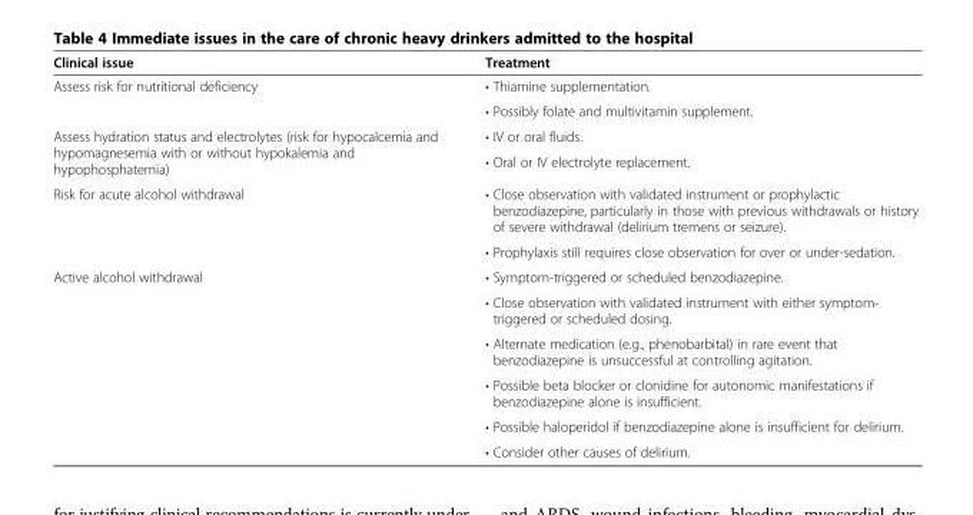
<table><thead><tr><td>Clinical issue</td><td>Treatment</td></tr></thead><tbody><tr><td rowspan="2">Assess risk for nutritional deficiency</td><td>• Thiamine supplementation.</td></tr><tr><td>• Possibly folate and multivitamin supplement.</td></tr><tr><td rowspan="2">Assess hydration status and electrolytes (risk for hypocalcemia and hypomagnesemia with or without hypokalemia and hypophosphatemia)</td><td>• IV or oral fluids.</td></tr><tr><td>• Oral or IV electrolyte replacement.</td></tr><tr><td rowspan="2">Risk for acute alcohol withdrawal</td><td>• Close observation with validated instrument or prophylactic benzodiazepine, particularly in those with previous withdrawals or history of severe withdrawal (delirium tremens or seizure).</td></tr><tr><td>• Prophylaxis still requires close observation for over or under-sedation.</td></tr><tr><td rowspan="6">Active alcohol withdrawal</td><td>• Symptom-triggered or scheduled benzodiazepine.</td></tr><tr><td>• Close observation with validated instrument with either symptom- triggered or scheduled dosing.</td></tr><tr><td>• Alternate medication (e.g., phenobarbital) in rare event that benzodiazepine is unsuccessful at controlling agitation.</td></tr><tr><td>• Possible beta blocker or clonidine for autonomic manifestations if benzodiazepine alone is insufficient.</td></tr><tr><td>• Possible haloperidol if benzodiazepine alone is insufficient for delirium.</td></tr><tr><td>• Consider other causes of delirium.</td></tr></tbody></table>